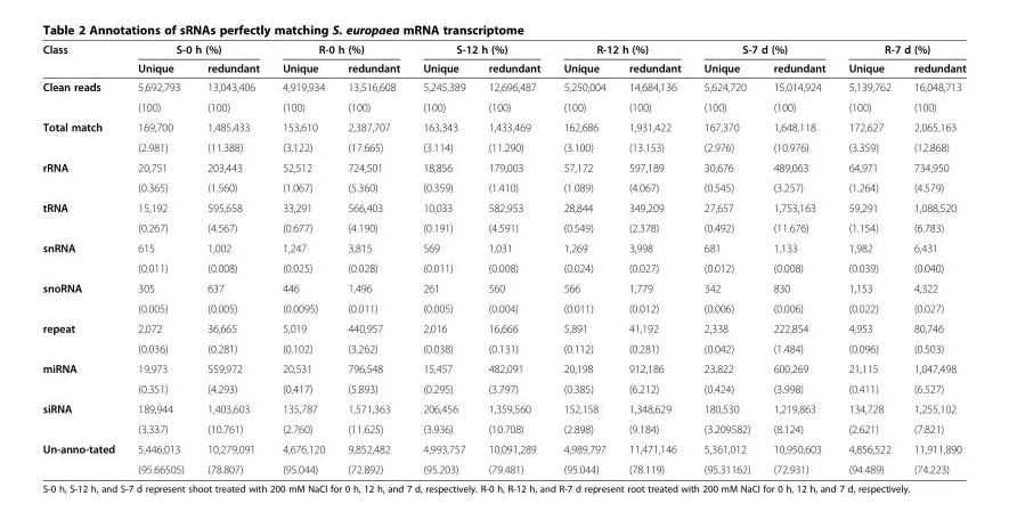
<table><thead><tr><td rowspan="2">Class</td><td colspan="2">S-0 h (%)</td><td colspan="2">R-0 h (%)</td><td colspan="2">S-12 h (%)</td><td colspan="2">R-12 h (%)</td><td colspan="2">S-7 d (%)</td><td colspan="2">R-7 d (%)</td></tr><tr><td>Unique</td><td>redundant</td><td>Unique</td><td>redundant</td><td>Unique</td><td>redundant</td><td>Unique</td><td>redundant</td><td>Unique</td><td>redundant</td><td>Unique</td><td>redundant</td></tr></thead><tbody><tr><td rowspan="2">Clean reads</td><td>5,692,793</td><td>13,043,406</td><td>4,919,934</td><td>13,516,608</td><td>5,245,389</td><td>12,696,487</td><td>5,250,004</td><td>14,684,136</td><td>5,624,720</td><td>15,014,924</td><td>5,139,762</td><td>16,048,713</td></tr><tr><td>(100)</td><td>(100)</td><td>(100)</td><td>(100)</td><td>(100)</td><td>(100)</td><td>(100)</td><td>(100)</td><td>(100)</td><td>(100)</td><td>(100)</td><td>(100)</td></tr><tr><td rowspan="2">Total match</td><td>169,700</td><td>1,485,433</td><td>153,610</td><td>2,387,707</td><td>163,343</td><td>1,433,469</td><td>162,686</td><td>1,931,422</td><td>167,370</td><td>1,648,118</td><td>172,627</td><td>2,065,163</td></tr><tr><td>(2.981)</td><td>(11.388)</td><td>(3.122)</td><td>(17.665)</td><td>(3.114)</td><td>(11.290)</td><td>(3.100)</td><td>(13.153)</td><td>(2.976)</td><td>(10.976)</td><td>(3.359)</td><td>(12.868)</td></tr><tr><td rowspan="2">rRNA</td><td>20,751</td><td>203,443</td><td>52,512</td><td>724,501</td><td>18,856</td><td>179,003</td><td>57,172</td><td>597,189</td><td>30,676</td><td>489,063</td><td>64,971</td><td>734,950</td></tr><tr><td>(0.365)</td><td>(1.560)</td><td>(1.067)</td><td>(5.360)</td><td>(0.359)</td><td>(1.410)</td><td>(1.089)</td><td>(4.067)</td><td>(0.545)</td><td>(3.257)</td><td>(1.264)</td><td>(4.579)</td></tr><tr><td rowspan="2">tRNA</td><td>15,192</td><td>595,658</td><td>33,291</td><td>566,403</td><td>10,033</td><td>582,953</td><td>28,844</td><td>349,209</td><td>27,657</td><td>1,753,163</td><td>59,291</td><td>1,088,520</td></tr><tr><td>(0.267)</td><td>(4.567)</td><td>(0.677)</td><td>(4.190)</td><td>(0.191)</td><td>(4.591)</td><td>(0.549)</td><td>(2.378)</td><td>(0.492)</td><td>(11.676)</td><td>(1.154)</td><td>(6.783)</td></tr><tr><td rowspan="2">snRNA</td><td>615</td><td>1,002</td><td>1,247</td><td>3,815</td><td>569</td><td>1,031</td><td>1,269</td><td>3,998</td><td>681</td><td>1,133</td><td>1,982</td><td>6,431</td></tr><tr><td>(0.011)</td><td>(0.008)</td><td>(0.025)</td><td>(0.028)</td><td>(0.011)</td><td>(0.008)</td><td>(0.024)</td><td>(0.027)</td><td>(0.012)</td><td>(0.008)</td><td>(0.039)</td><td>(0.040)</td></tr><tr><td rowspan="2">snoRNA</td><td>305</td><td>637</td><td>446</td><td>1,496</td><td>261</td><td>560</td><td>566</td><td>1,779</td><td>342</td><td>830</td><td>1,153</td><td>4,322</td></tr><tr><td>(0.005)</td><td>(0.005)</td><td>(0.0095)</td><td>(0.011)</td><td>(0.005)</td><td>(0.004)</td><td>(0.011)</td><td>(0.012)</td><td>(0.006)</td><td>(0.006)</td><td>(0.022)</td><td>(0.027)</td></tr><tr><td rowspan="2">repeat</td><td>2,072</td><td>36,665</td><td>5,019</td><td>440,957</td><td>2,016</td><td>16,666</td><td>5,891</td><td>41,192</td><td>2,338</td><td>222,854</td><td>4,953</td><td>80,746</td></tr><tr><td>(0.036)</td><td>(0.281)</td><td>(0.102)</td><td>(3.262)</td><td>(0.038)</td><td>(0.131)</td><td>(0.112)</td><td>(0.281)</td><td>(0.042)</td><td>(1.484)</td><td>(0.096)</td><td>(0.503)</td></tr><tr><td rowspan="2">miRNA</td><td>19,973</td><td>559,972</td><td>20,531</td><td>796,548</td><td>15,457</td><td>482,091</td><td>20,198</td><td>912,186</td><td>23,822</td><td>600,269</td><td>21,115</td><td>1,047,498</td></tr><tr><td>(0.351)</td><td>(4.293)</td><td>(0.417)</td><td>(5.893)</td><td>(0.295)</td><td>(3.797)</td><td>(0.385)</td><td>(6.212)</td><td>(0.424)</td><td>(3.998)</td><td>(0.411)</td><td>(6.527)</td></tr><tr><td rowspan="2">siRNA</td><td>189,944</td><td>1,403,603</td><td>135,787</td><td>1,571,363</td><td>206,456</td><td>1,359,560</td><td>152,158</td><td>1,348,629</td><td>180,530</td><td>1,219,863</td><td>134,728</td><td>1,255,102</td></tr><tr><td>(3.337)</td><td>(10.761)</td><td>(2.760)</td><td>(11.625)</td><td>(3.936)</td><td>(10.708)</td><td>(2.898)</td><td>(9.184)</td><td>(3.209582)</td><td>(8.124)</td><td>(2.621)</td><td>(7.821)</td></tr><tr><td rowspan="2">Un-anno-tated</td><td>5,446,013</td><td>10,279,091</td><td>4,676,120</td><td>9,852,482</td><td>4,993,757</td><td>10,091,289</td><td>4,989,797</td><td>11,471,146</td><td>5,361,012</td><td>10,950,603</td><td>4,856,522</td><td>11,911,890</td></tr><tr><td>(95.66505)</td><td>(78.807)</td><td>(95.044)</td><td>(72.892)</td><td>(95.203)</td><td>(79.481)</td><td>(95.044)</td><td>(78.119)</td><td>(95.31162)</td><td>(72.931)</td><td>(94.489)</td><td>(74.223)</td></tr></tbody></table>